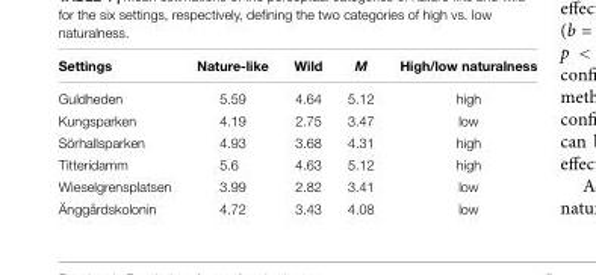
<table><thead><tr><td>Settings</td><td>Nature-like</td><td>Wild</td><td>M</td><td>High/low naturalness</td></tr></thead><tbody><tr><td>Guldheden</td><td>5.59</td><td>4.64</td><td>5.12</td><td>high</td></tr><tr><td>Kungsparken</td><td>4.19</td><td>2.75</td><td>3.47</td><td>low</td></tr><tr><td>Sörhallsparken</td><td>4.93</td><td>3.68</td><td>4.31</td><td>high</td></tr><tr><td>Titteridamm</td><td>5.6</td><td>4.63</td><td>5.12</td><td>high</td></tr><tr><td>Wieselgrensplatsen</td><td>3.99</td><td>2.82</td><td>3.41</td><td>low</td></tr><tr><td>Änggårdskolonin</td><td>4.72</td><td>3.43</td><td>4.08</td><td>low</td></tr></tbody></table>